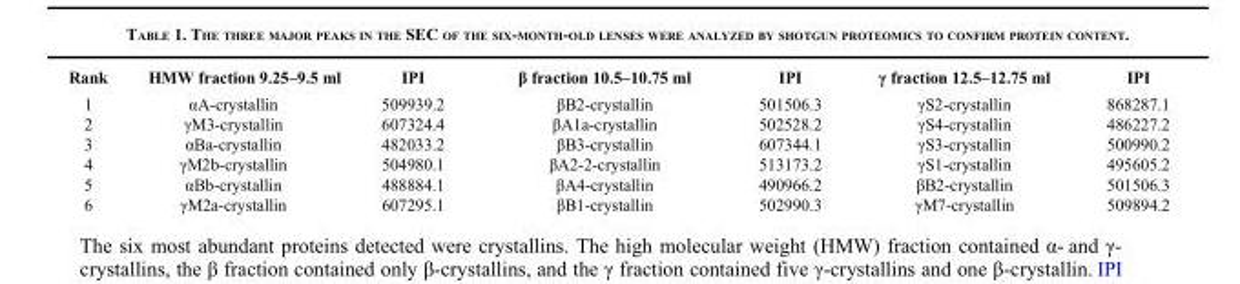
<table><tbody><tr><td>Rank</td><td>HMW fraction 9.25–9.5 ml</td><td>IPI</td><td>β fraction 10.5–10.75 ml</td><td>IPI</td><td>γ fraction 12.5–12.75 ml</td><td>IPI</td></tr><tr><td>1</td><td>αA-crystallin</td><td>509939.2</td><td>βB2-crystallin</td><td>501506.3</td><td>γS2-crystallin</td><td>868287.1</td></tr><tr><td>2</td><td>γM3-crystallin</td><td>607324.4</td><td>βA1a-crystallin</td><td>502528.2</td><td>γS4-crystallin</td><td>486227.2</td></tr><tr><td>3</td><td>αBa-crystallin</td><td>482033.2</td><td>βB3-crystallin</td><td>607344.1</td><td>γS3-crystallin</td><td>500990.2</td></tr><tr><td>4</td><td>γM2b-crystallin</td><td>504980.1</td><td>βA2-2-crystallin</td><td>513173.2</td><td>γS1-crystallin</td><td>495605.2</td></tr><tr><td>5</td><td>αBb-crystallin</td><td>488884.1</td><td>βA4-crystallin</td><td>490966.2</td><td>βB2-crystallin</td><td>501506.3</td></tr><tr><td>6</td><td>γM2a-crystallin</td><td>607295.1</td><td>βB1-crystallin</td><td>502990.3</td><td>γM7-crystallin</td><td>509894.2</td></tr></tbody></table>